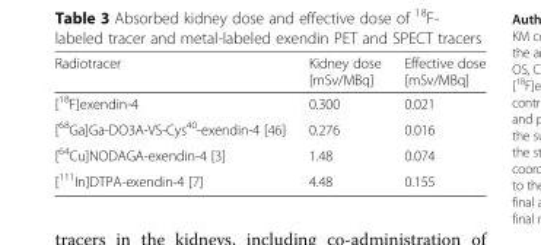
<table><thead><tr><td>Radiotracer</td><td>Kidney dose [mSv/MBq]</td><td>Effective dose [mSv/MBq]</td></tr></thead><tbody><tr><td>[<sup>18</sup>F]exendin-4</td><td>0.300</td><td>0.021</td></tr><tr><td>[<sup>68</sup>Ga]Ga-DO3A-VS-Cys<sup>40</sup>-exendin-4 [46]</td><td>0.276</td><td>0.016</td></tr><tr><td>[<sup>64</sup>Cu]NODAGA-exendin-4 [3]</td><td>1.48</td><td>0.074</td></tr><tr><td>[<sup>111</sup>In]DTPA-exendin-4 [7]</td><td>4.48</td><td>0.155</td></tr></tbody></table>